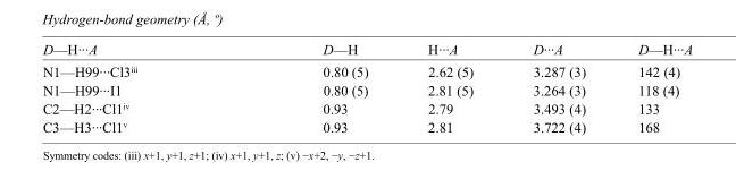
<table><tbody><tr><td>D—H···A</td><td>D—H</td><td>H···A</td><td>D···A</td><td>D—H···A</td></tr><tr><td>N1—H99···Cl3<sup>iii</sup></td><td>0.80 (5)</td><td>2.62 (5)</td><td>3.287 (3)</td><td>142 (4)</td></tr><tr><td>N1—H99···I1</td><td>0.80 (5)</td><td>2.81 (5)</td><td>3.264 (3)</td><td>118 (4)</td></tr><tr><td>C2—H2···Cl1<sup>iv</sup></td><td>0.93</td><td>2.79</td><td>3.493 (4)</td><td>133</td></tr><tr><td>C3—H3···Cl1<sup>v</sup></td><td>0.93</td><td>2.81</td><td>3.722 (4)</td><td>168</td></tr></tbody></table>